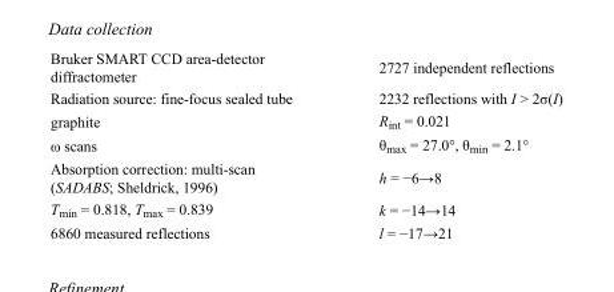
<table><tbody><tr><td>Bruker SMART CCD area-detector diffractometer</td><td>2727 independent reflections</td></tr><tr><td>Radiation source: fine-focus sealed tube</td><td>2232 reflections with I &gt; 2σ(I)</td></tr><tr><td>graphite</td><td>R<sub>int</sub> = 0.021</td></tr><tr><td>ω scans</td><td>θ<sub>max</sub> = 27.0°, θ<sub>min</sub> = 2.1°</td></tr><tr><td>Absorption correction: multi-scan (SADABS; Sheldrick, 1996)</td><td>h = −6→8</td></tr><tr><td>T<sub>min</sub> = 0.818, T<sub>max</sub> = 0.839</td><td>k = −14→14</td></tr><tr><td>6860 measured reflections</td><td>l = −17→21</td></tr></tbody></table>